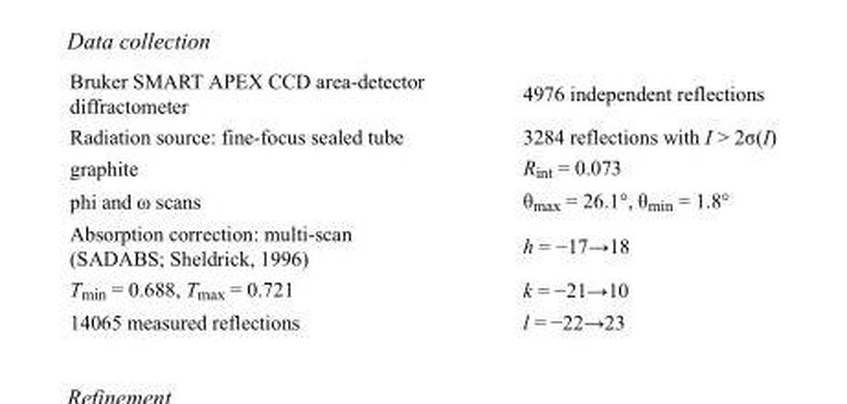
<table><tbody><tr><td>Bruker SMART APEX CCD area-detector diffractometer</td><td>4976 independent reflections</td></tr><tr><td>Radiation source: fine-focus sealed tube</td><td>3284 reflections with I &gt; 2σ(I)</td></tr><tr><td>graphite</td><td>R<sub>int</sub> = 0.073</td></tr><tr><td>phi and ω scans</td><td>θ<sub>max</sub> = 26.1°, θ<sub>min</sub> = 1.8°</td></tr><tr><td>Absorption correction: multi-scan (SADABS; Sheldrick, 1996)</td><td>h = −17→18</td></tr><tr><td>T<sub>min</sub> = 0.688, T<sub>max</sub> = 0.721</td><td>k = −21→10</td></tr><tr><td>14065 measured reflections</td><td>l = −22→23</td></tr></tbody></table>